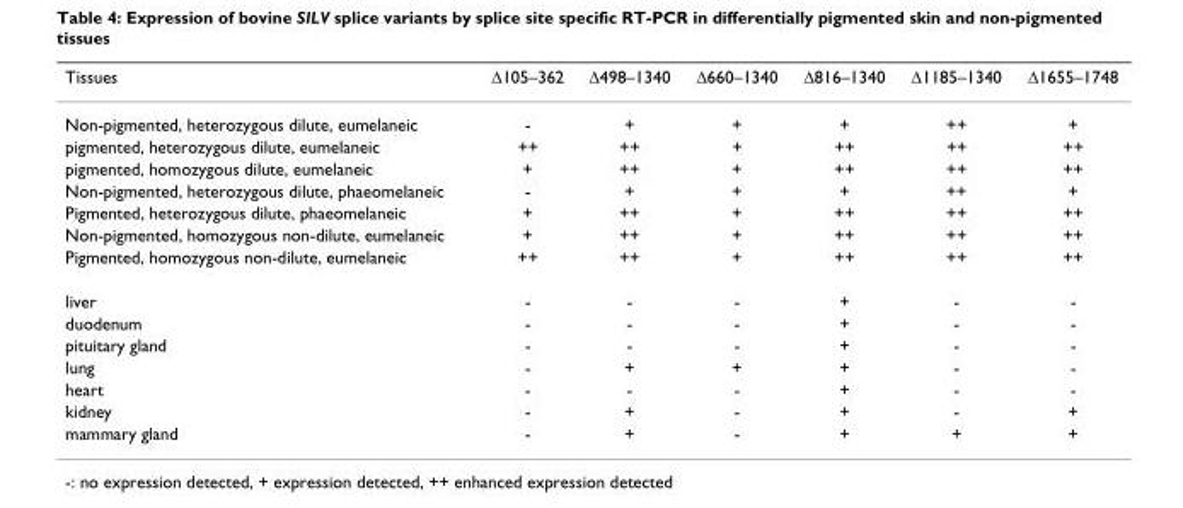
<table><thead><tr><td>Tissues</td><td>∆105–362</td><td>∆498–1340</td><td>∆660–1340</td><td>∆816–1340</td><td>∆1185–1340</td><td>∆1655–1748</td></tr></thead><tbody><tr><td>Non-pigmented, heterozygous dilute, eumelaneic</td><td>-</td><td>+</td><td>+</td><td>+</td><td>++</td><td>+</td></tr><tr><td>pigmented, heterozygous dilute, eumelaneic</td><td>++</td><td>++</td><td>+</td><td>++</td><td>++</td><td>++</td></tr><tr><td>pigmented, homozygous dilute, eumelaneic</td><td>+</td><td>++</td><td>+</td><td>++</td><td>++</td><td>++</td></tr><tr><td>Non-pigmented, heterozygous dilute, phaeomelaneic</td><td>-</td><td>+</td><td>+</td><td>+</td><td>++</td><td>+</td></tr><tr><td>Pigmented, heterozygous dilute, phaeomelaneic</td><td>+</td><td>++</td><td>+</td><td>++</td><td>++</td><td>++</td></tr><tr><td>Non-pigmented, homozygous non-dilute, eumelaneic</td><td>+</td><td>++</td><td>+</td><td>++</td><td>++</td><td>++</td></tr><tr><td>Pigmented, homozygous non-dilute, eumelaneic</td><td>++</td><td>++</td><td>+</td><td>++</td><td>++</td><td>++</td></tr><tr><td>liver</td><td>-</td><td>-</td><td>-</td><td>+</td><td>-</td><td>-</td></tr><tr><td>duodenum</td><td>-</td><td>-</td><td>-</td><td>+</td><td>-</td><td>-</td></tr><tr><td>pituitary gland</td><td>-</td><td>-</td><td>-</td><td>+</td><td>-</td><td>-</td></tr><tr><td>lung</td><td>-</td><td>+</td><td>+</td><td>+</td><td>-</td><td>-</td></tr><tr><td>heart</td><td>-</td><td>-</td><td>-</td><td>+</td><td>-</td><td>-</td></tr><tr><td>kidney</td><td>-</td><td>+</td><td>-</td><td>+</td><td>-</td><td>+</td></tr><tr><td>mammary gland</td><td>-</td><td>+</td><td>-</td><td>+</td><td>+</td><td>+</td></tr></tbody></table>